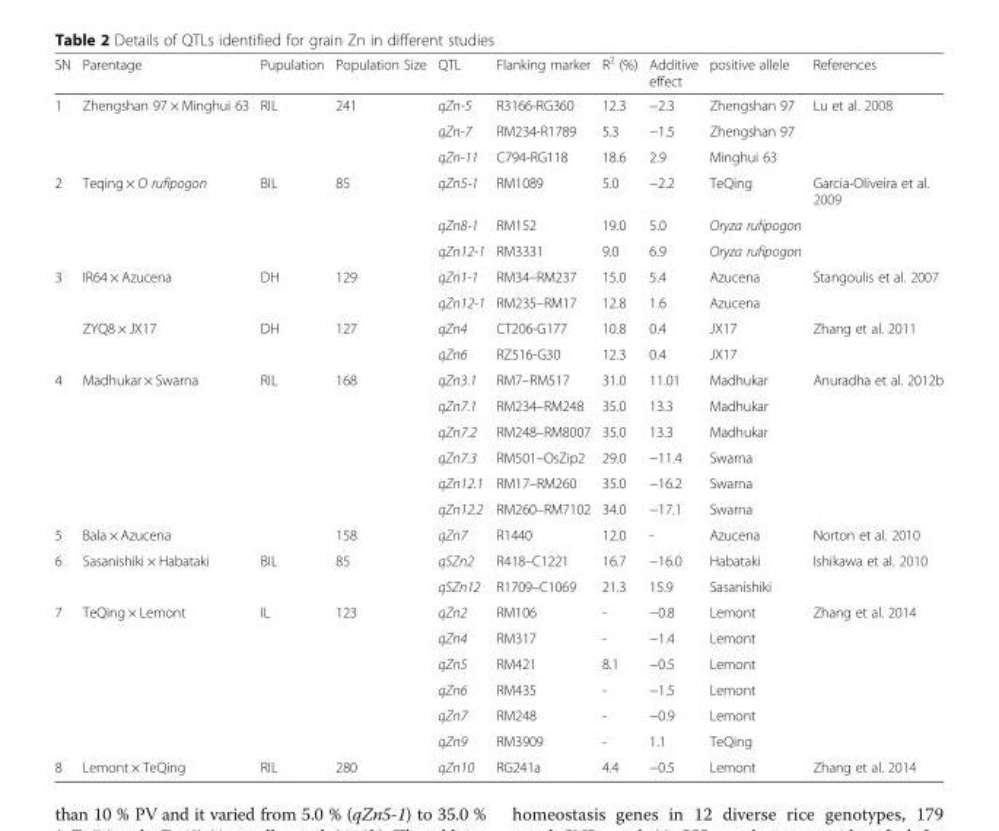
<table><thead><tr><td>SN</td><td>Parentage</td><td>Pupulation</td><td>Population Size</td><td>QTL</td><td>Flanking marker</td><td>R<sup>2</sup> (%)</td><td>Additive effect</td><td>positive allele</td><td>References</td></tr></thead><tbody><tr><td rowspan="3">1</td><td>Zhengshan 97 × Minghui 63</td><td>RIL</td><td>241</td><td>qZn-5</td><td>R3166-RG360</td><td>12.3</td><td>−2.3</td><td>Zhengshan 97</td><td>Lu et al. 2008</td></tr><tr><td></td><td></td><td></td><td>qZn-7</td><td>RM234-R1789</td><td>5.3</td><td>−1.5</td><td>Zhengshan 97</td><td></td></tr><tr><td></td><td></td><td></td><td>qZn-11</td><td>C794-RG118</td><td>18.6</td><td>2.9</td><td>Minghui 63</td><td></td></tr><tr><td rowspan="3">2</td><td>Teqing × O rufipogon</td><td>BIL</td><td>85</td><td>qZn5-1</td><td>RM1089</td><td>5.0</td><td>−2.2</td><td>TeQing</td><td>Garcia-Oliveira et al. 2009</td></tr><tr><td></td><td></td><td></td><td>qZn8-1</td><td>RM152</td><td>19.0</td><td>5.0</td><td>Oryza rufipogon</td><td></td></tr><tr><td></td><td></td><td></td><td>qZn12-1</td><td>RM3331</td><td>9.0</td><td>6.9</td><td>Oryza rufipogon</td><td></td></tr><tr><td rowspan="4">3</td><td>IR64 × Azucena</td><td>DH</td><td>129</td><td>qZn1-1</td><td>RM34–RM237</td><td>15.0</td><td>5.4</td><td>Azucena</td><td>Stangoulis et al. 2007</td></tr><tr><td></td><td></td><td></td><td>qZn12-1</td><td>RM235–RM17</td><td>12.8</td><td>1.6</td><td>Azucena</td><td></td></tr><tr><td>ZYQ8 × JX17</td><td>DH</td><td>127</td><td>qZn4</td><td>CT206-G177</td><td>10.8</td><td>0.4</td><td>JX17</td><td>Zhang et al. 2011</td></tr><tr><td></td><td></td><td></td><td>qZn6</td><td>RZ516-G30</td><td>12.3</td><td>0.4</td><td>JX17</td><td></td></tr><tr><td rowspan="6">4</td><td>Madhukar × Swarna</td><td>RIL</td><td>168</td><td>qZn3.1</td><td>RM7–RM517</td><td>31.0</td><td>11.01</td><td>Madhukar</td><td>Anuradha et al. 2012b</td></tr><tr><td></td><td></td><td></td><td>qZn7.1</td><td>RM234–RM248</td><td>35.0</td><td>13.3</td><td>Madhukar</td><td></td></tr><tr><td></td><td></td><td></td><td>qZn7.2</td><td>RM248–RM8007</td><td>35.0</td><td>13.3</td><td>Madhukar</td><td></td></tr><tr><td></td><td></td><td></td><td>qZn7.3</td><td>RM501–OsZip2</td><td>29.0</td><td>−11.4</td><td>Swarna</td><td></td></tr><tr><td></td><td></td><td></td><td>qZn12.1</td><td>RM17–RM260</td><td>35.0</td><td>−16.2</td><td>Swarna</td><td></td></tr><tr><td></td><td></td><td></td><td>qZn12.2</td><td>RM260–RM7102</td><td>34.0</td><td>−17.1</td><td>Swarna</td><td></td></tr><tr><td>5</td><td>Bala × Azucena</td><td></td><td>158</td><td>qZn7</td><td>R1440</td><td>12.0</td><td>-</td><td>Azucena</td><td>Norton et al. 2010</td></tr><tr><td rowspan="2">6</td><td>Sasanishiki × Habataki</td><td>BIL</td><td>85</td><td>qSZn2</td><td>R418–C1221</td><td>16.7</td><td>−16.0</td><td>Habataki</td><td>Ishikawa et al. 2010</td></tr><tr><td></td><td></td><td></td><td>qSZn12</td><td>R1709–C1069</td><td>21.3</td><td>15.9</td><td>Sasanishiki</td><td></td></tr><tr><td rowspan="6">7</td><td>TeQing × Lemont</td><td>IL</td><td>123</td><td>qZn2</td><td>RM106</td><td>-</td><td>−0.8</td><td>Lemont</td><td>Zhang et al. 2014</td></tr><tr><td></td><td></td><td></td><td>qZn4</td><td>RM317</td><td>-</td><td>−1.4</td><td>Lemont</td><td></td></tr><tr><td></td><td></td><td></td><td>qZn5</td><td>RM421</td><td>8.1</td><td>−0.5</td><td>Lemont</td><td></td></tr><tr><td></td><td></td><td></td><td>qZn6</td><td>RM435</td><td>-</td><td>−1.5</td><td>Lemont</td><td></td></tr><tr><td></td><td></td><td></td><td>qZn7</td><td>RM248</td><td>-</td><td>−0.9</td><td>Lemont</td><td></td></tr><tr><td></td><td></td><td></td><td>qZn9</td><td>RM3909</td><td>-</td><td>1.1</td><td>TeQing</td><td></td></tr><tr><td>8</td><td>Lemont × TeQing</td><td>RIL</td><td>280</td><td>qZn10</td><td>RG241a</td><td>4.4</td><td>−0.5</td><td>Lemont</td><td>Zhang et al. 2014</td></tr></tbody></table>